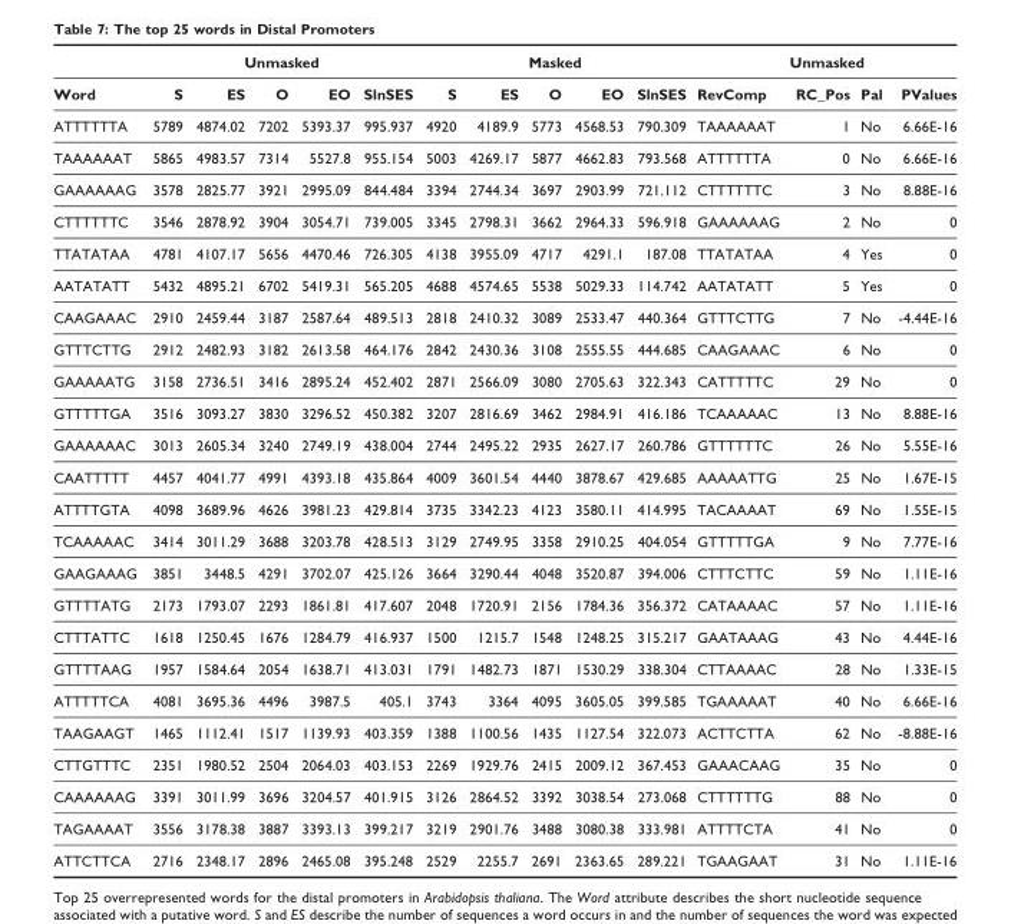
<table><thead><tr><td rowspan="2">Word</td><td colspan="5">Unmasked</td><td colspan="5">Masked</td><td colspan="4">Unmasked</td></tr><tr><td>S</td><td>ES</td><td>O</td><td>EO</td><td>SlnSES</td><td>S</td><td>ES</td><td>O</td><td>EO</td><td>SlnSES</td><td>RevComp</td><td>RC_Pos</td><td>Pal</td><td>PValues</td></tr></thead><tbody><tr><td>ATTTTTTA</td><td>5789</td><td>4874.02</td><td>7202</td><td>5393.37</td><td>995.937</td><td>4920</td><td>4189.9</td><td>5773</td><td>4568.53</td><td>790.309</td><td>TAAAAAAT</td><td>1</td><td>No</td><td>6.66E-16</td></tr><tr><td>TAAAAAAT</td><td>5865</td><td>4983.57</td><td>7314</td><td>5527.8</td><td>955.154</td><td>5003</td><td>4269.17</td><td>5877</td><td>4662.83</td><td>793.568</td><td>ATTTTTTA</td><td>0</td><td>No</td><td>6.66E-16</td></tr><tr><td>GAAAAAAG</td><td>3578</td><td>2825.77</td><td>3921</td><td>2995.09</td><td>844.484</td><td>3394</td><td>2744.34</td><td>3697</td><td>2903.99</td><td>721.112</td><td>CTTTTTTC</td><td>3</td><td>No</td><td>8.88E-16</td></tr><tr><td>CTTTTTTC</td><td>3546</td><td>2878.92</td><td>3904</td><td>3054.71</td><td>739.005</td><td>3345</td><td>2798.31</td><td>3662</td><td>2964.33</td><td>596.918</td><td>GAAAAAAG</td><td>2</td><td>No</td><td>0</td></tr><tr><td>TTATATAA</td><td>4781</td><td>4107.17</td><td>5656</td><td>4470.46</td><td>726.305</td><td>4138</td><td>3955.09</td><td>4717</td><td>4291.1</td><td>187.08</td><td>TTATATAA</td><td>4</td><td>Yes</td><td>0</td></tr><tr><td>AATATATT</td><td>5432</td><td>4895.21</td><td>6702</td><td>5419.31</td><td>565.205</td><td>4688</td><td>4574.65</td><td>5538</td><td>5029.33</td><td>114.742</td><td>AATATATT</td><td>5</td><td>Yes</td><td>0</td></tr><tr><td>CAAGAAAC</td><td>2910</td><td>2459.44</td><td>3187</td><td>2587.64</td><td>489.513</td><td>2818</td><td>2410.32</td><td>3089</td><td>2533.47</td><td>440.364</td><td>GTTTCTTG</td><td>7</td><td>No</td><td>-4.44E-16</td></tr><tr><td>GTTTCTTG</td><td>2912</td><td>2482.93</td><td>3182</td><td>2613.58</td><td>464.176</td><td>2842</td><td>2430.36</td><td>3108</td><td>2555.55</td><td>444.685</td><td>CAAGAAAC</td><td>6</td><td>No</td><td>0</td></tr><tr><td>GAAAAATG</td><td>3158</td><td>2736.51</td><td>3416</td><td>2895.24</td><td>452.402</td><td>2871</td><td>2566.09</td><td>3080</td><td>2705.63</td><td>322.343</td><td>CATTTTTC</td><td>29</td><td>No</td><td>0</td></tr><tr><td>GTTTTTGA</td><td>3516</td><td>3093.27</td><td>3830</td><td>3296.52</td><td>450.382</td><td>3207</td><td>2816.69</td><td>3462</td><td>2984.91</td><td>416.186</td><td>TCAAAAAC</td><td>13</td><td>No</td><td>8.88E-16</td></tr><tr><td>GAAAAAAC</td><td>3013</td><td>2605.34</td><td>3240</td><td>2749.19</td><td>438.004</td><td>2744</td><td>2495.22</td><td>2935</td><td>2627.17</td><td>260.786</td><td>GTTTTTTC</td><td>26</td><td>No</td><td>5.55E-16</td></tr><tr><td>CAATTTTT</td><td>4457</td><td>4041.77</td><td>4991</td><td>4393.18</td><td>435.864</td><td>4009</td><td>3601.54</td><td>4440</td><td>3878.67</td><td>429.685</td><td>AAAAATTG</td><td>25</td><td>No</td><td>1.67E-15</td></tr><tr><td>ATTTTGTA</td><td>4098</td><td>3689.96</td><td>4626</td><td>3981.23</td><td>429.814</td><td>3735</td><td>3342.23</td><td>4123</td><td>3580.11</td><td>414.995</td><td>TACAAAAT</td><td>69</td><td>No</td><td>1.55E-15</td></tr><tr><td>TCAAAAAC</td><td>3414</td><td>3011.29</td><td>3688</td><td>3203.78</td><td>428.513</td><td>3129</td><td>2749.95</td><td>3358</td><td>2910.25</td><td>404.054</td><td>GTTTTTGA</td><td>9</td><td>No</td><td>7.77E-16</td></tr><tr><td>GAAGAAAG</td><td>3851</td><td>3448.5</td><td>4291</td><td>3702.07</td><td>425.126</td><td>3664</td><td>3290.44</td><td>4048</td><td>3520.87</td><td>394.006</td><td>CTTTCTTC</td><td>59</td><td>No</td><td>1.11E-16</td></tr><tr><td>GTTTTATG</td><td>2173</td><td>1793.07</td><td>2293</td><td>1861.81</td><td>417.607</td><td>2048</td><td>1720.91</td><td>2156</td><td>1784.36</td><td>356.372</td><td>CATAAAAC</td><td>57</td><td>No</td><td>1.11E-16</td></tr><tr><td>CTTTATTC</td><td>1618</td><td>1250.45</td><td>1676</td><td>1284.79</td><td>416.937</td><td>1500</td><td>1215.7</td><td>1548</td><td>1248.25</td><td>315.217</td><td>GAATAAAG</td><td>43</td><td>No</td><td>4.44E-16</td></tr><tr><td>GTTTTAAG</td><td>1957</td><td>1584.64</td><td>2054</td><td>1638.71</td><td>413.031</td><td>1791</td><td>1482.73</td><td>1871</td><td>1530.29</td><td>338.304</td><td>CTTAAAAC</td><td>28</td><td>No</td><td>1.33E-15</td></tr><tr><td>ATTTTTCA</td><td>4081</td><td>3695.36</td><td>4496</td><td>3987.5</td><td>405.1</td><td>3743</td><td>3364</td><td>4095</td><td>3605.05</td><td>399.585</td><td>TGAAAAAT</td><td>40</td><td>No</td><td>6.66E-16</td></tr><tr><td>TAAGAAGT</td><td>1465</td><td>1112.41</td><td>1517</td><td>1139.93</td><td>403.359</td><td>1388</td><td>1100.56</td><td>1435</td><td>1127.54</td><td>322.073</td><td>ACTTCTTA</td><td>62</td><td>No</td><td>-8.88E-16</td></tr><tr><td>CTTGTTTC</td><td>2351</td><td>1980.52</td><td>2504</td><td>2064.03</td><td>403.153</td><td>2269</td><td>1929.76</td><td>2415</td><td>2009.12</td><td>367.453</td><td>GAAACAAG</td><td>35</td><td>No</td><td>0</td></tr><tr><td>CAAAAAAG</td><td>3391</td><td>3011.99</td><td>3696</td><td>3204.57</td><td>401.915</td><td>3126</td><td>2864.52</td><td>3392</td><td>3038.54</td><td>273.068</td><td>CTTTTTTG</td><td>88</td><td>No</td><td>0</td></tr><tr><td>TAGAAAAT</td><td>3556</td><td>3178.38</td><td>3887</td><td>3393.13</td><td>399.217</td><td>3219</td><td>2901.76</td><td>3488</td><td>3080.38</td><td>333.981</td><td>ATTTTCTA</td><td>41</td><td>No</td><td>0</td></tr><tr><td>ATTCTTCA</td><td>2716</td><td>2348.17</td><td>2896</td><td>2465.08</td><td>395.248</td><td>2529</td><td>2255.7</td><td>2691</td><td>2363.65</td><td>289.221</td><td>TGAAGAAT</td><td>31</td><td>No</td><td>1.11E-16</td></tr></tbody></table>